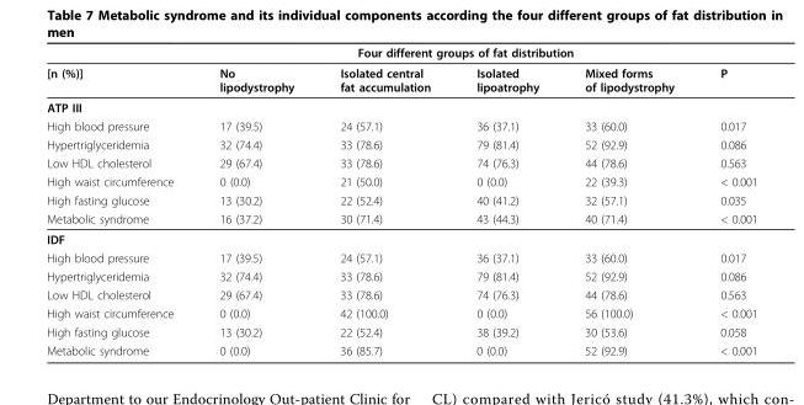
<table><thead><tr><td rowspan="2">[n (%)]</td><td colspan="4">Four different groups of fat distribution</td><td rowspan="2">P</td></tr><tr><td>No lipodystrophy</td><td>Isolated central fat accumulation</td><td>Isolated lipoatrophy</td><td>Mixed forms of lipodystrophy</td></tr></thead><tbody><tr><td colspan="6">ATP III</td></tr><tr><td>High blood pressure</td><td>17 (39.5)</td><td>24 (57.1)</td><td>36 (37.1)</td><td>33 (60.0)</td><td>0.017</td></tr><tr><td>Hypertriglyceridemia</td><td>32 (74.4)</td><td>33 (78.6)</td><td>79 (81.4)</td><td>52 (92.9)</td><td>0.086</td></tr><tr><td>Low HDL cholesterol</td><td>29 (67.4)</td><td>33 (78.6)</td><td>74 (76.3)</td><td>44 (78.6)</td><td>0.563</td></tr><tr><td>High waist circumference</td><td>0 (0.0)</td><td>21 (50.0)</td><td>0 (0.0)</td><td>22 (39.3)</td><td>&lt; 0.001</td></tr><tr><td>High fasting glucose</td><td>13 (30.2)</td><td>22 (52.4)</td><td>40 (41.2)</td><td>32 (57.1)</td><td>0.035</td></tr><tr><td>Metabolic syndrome</td><td>16 (37.2)</td><td>30 (71.4)</td><td>43 (44.3)</td><td>40 (71.4)</td><td>&lt; 0.001</td></tr><tr><td colspan="6">IDF</td></tr><tr><td>High blood pressure</td><td>17 (39.5)</td><td>24 (57.1)</td><td>36 (37.1)</td><td>33 (60.0)</td><td>0.017</td></tr><tr><td>Hypertriglyceridemia</td><td>32 (74.4)</td><td>33 (78.6)</td><td>79 (81.4)</td><td>52 (92.9)</td><td>0.086</td></tr><tr><td>Low HDL cholesterol</td><td>29 (67.4)</td><td>33 (78.6)</td><td>74 (76.3)</td><td>44 (78.6)</td><td>0.563</td></tr><tr><td>High waist circumference</td><td>0 (0.0)</td><td>42 (100.0)</td><td>0 (0.0)</td><td>56 (100.0)</td><td>&lt; 0.001</td></tr><tr><td>High fasting glucose</td><td>13 (30.2)</td><td>22 (52.4)</td><td>38 (39.2)</td><td>30 (53.6)</td><td>0.058</td></tr><tr><td>Metabolic syndrome</td><td>0 (0.0)</td><td>36 (85.7)</td><td>0 (0.0)</td><td>52 (92.9)</td><td>&lt; 0.001</td></tr></tbody></table>